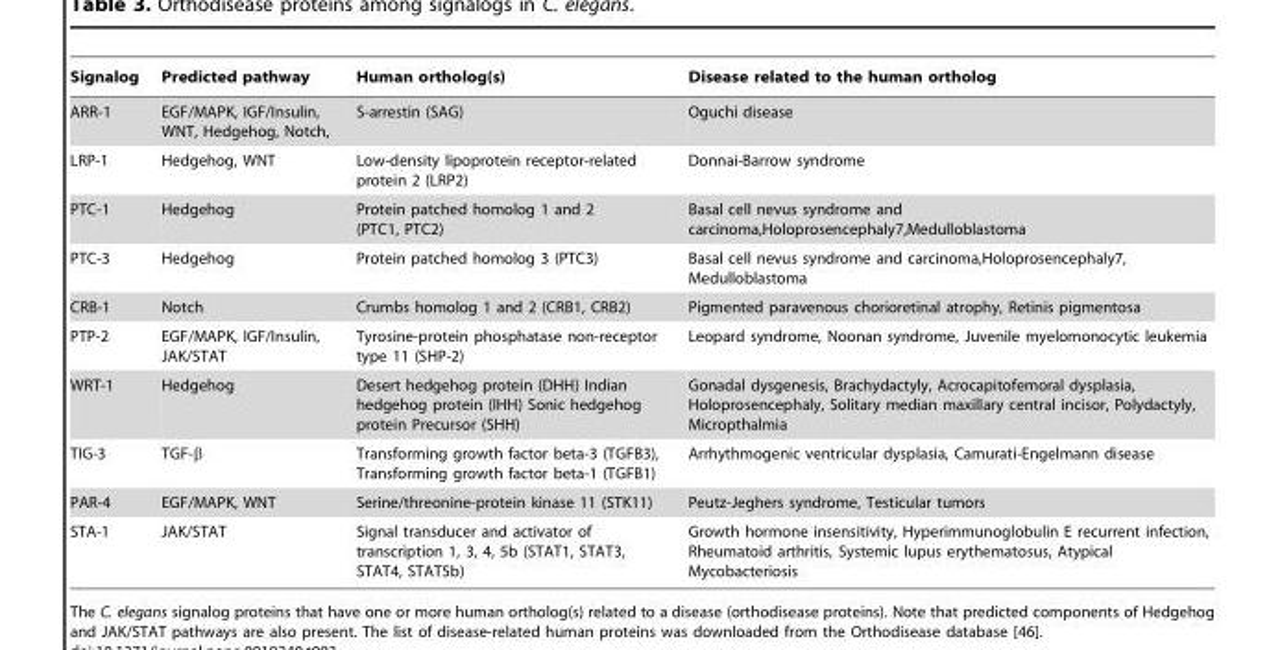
<table><thead><tr><td>Signalog</td><td>Predicted pathway</td><td>Human ortholog(s)</td><td>Disease related to the human ortholog</td></tr></thead><tbody><tr><td>ARR-1</td><td>EGF/MAPK, IGF/Insulin, WNT, Hedgehog, Notch,</td><td>S-arrestin (SAG)</td><td>Oguchi disease</td></tr><tr><td>LRP-1</td><td>Hedgehog, WNT</td><td>Low-density lipoprotein receptor-related protein 2 (LRP2)</td><td>Donnai-Barrow syndrome</td></tr><tr><td>PTC-1</td><td>Hedgehog</td><td>Protein patched homolog 1 and 2 (PTC1, PTC2)</td><td>Basal cell nevus syndrome and carcinoma,Holoprosencephaly7,Medulloblastoma</td></tr><tr><td>PTC-3</td><td>Hedgehog</td><td>Protein patched homolog 3 (PTC3)</td><td>Basal cell nevus syndrome and carcinoma,Holoprosencephaly7, Medulloblastoma</td></tr><tr><td>CRB-1</td><td>Notch</td><td>Crumbs homolog 1 and 2 (CRB1, CRB2)</td><td>Pigmented paravenous chorioretinal atrophy, Retinis pigmentosa</td></tr><tr><td>PTP-2</td><td>EGF/MAPK, IGF/Insulin, JAK/STAT</td><td>Tyrosine-protein phosphatase non-receptor type 11 (SHP-2)</td><td>Leopard syndrome, Noonan syndrome, Juvenile myelomonocytic leukemia</td></tr><tr><td>WRT-1</td><td>Hedgehog</td><td>Desert hedgehog protein (DHH) Indian hedgehog protein (IHH) Sonic hedgehog protein Precursor (SHH)</td><td>Gonadal dysgenesis, Brachydactyly, Acrocapitofemoral dysplasia, Holoprosencephaly, Solitary median maxillary central incisor, Polydactyly, Micropthalmia</td></tr><tr><td>TIG-3</td><td>TGF-β</td><td>Transforming growth factor beta-3 (TGFB3), Transforming growth factor beta-1 (TGFB1)</td><td>Arrhythmogenic ventricular dysplasia, Camurati-Engelmann disease</td></tr><tr><td>PAR-4</td><td>EGF/MAPK, WNT</td><td>Serine/threonine-protein kinase 11 (STK11)</td><td>Peutz-Jeghers syndrome, Testicular tumors</td></tr><tr><td>STA-1</td><td>JAK/STAT</td><td>Signal transducer and activator of transcription 1, 3, 4, 5b (STAT1, STAT3, STAT4, STAT5b)</td><td>Growth hormone insensitivity, Hyperimmunoglobulin E recurrent infection, Rheumatoid arthritis, Systemic lupus erythematosus, Atypical Mycobacteriosis</td></tr></tbody></table>